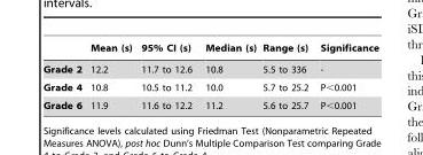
<table><thead><tr><td></td><td>Mean (s)</td><td>95% CI (s)</td><td>Median (s)</td><td>Range (s)</td><td>Significance</td></tr></thead><tbody><tr><td>Grade 2</td><td>12.2</td><td>11.7 to 12.6</td><td>10.8</td><td>5.5 to 336</td><td>-</td></tr><tr><td>Grade 4</td><td>10.8</td><td>10.5 to 11.2</td><td>10.0</td><td>5.7 to 25.2</td><td>P&lt;0.001</td></tr><tr><td>Grade 6</td><td>11.9</td><td>11.6 to 12.2</td><td>11.2</td><td>5.6 to 25.7</td><td>P&lt;0.001</td></tr></tbody></table>